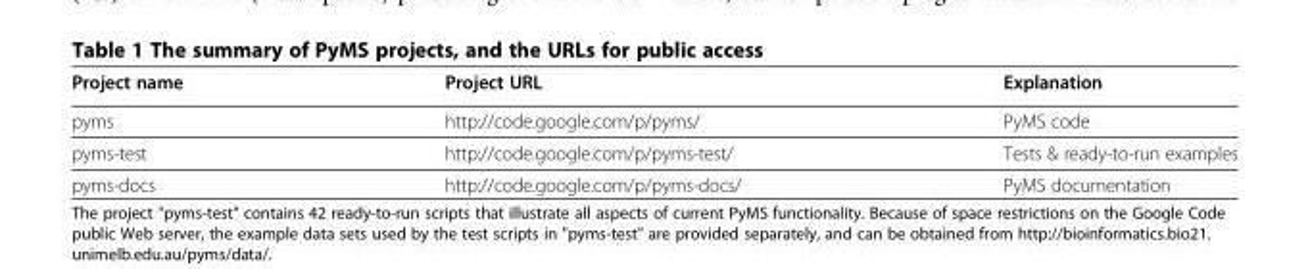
<table><thead><tr><td>Project name</td><td>Project URL</td><td>Explanation</td></tr></thead><tbody><tr><td>pyms</td><td>http://code.google.com/p/pyms/</td><td>PyMS code</td></tr><tr><td>pyms-test</td><td>http://code.google.com/p/pyms-test/</td><td>Tests &amp; ready-to-run examples</td></tr><tr><td>pyms-docs</td><td>http://code.google.com/p/pyms-docs/</td><td>PyMS documentation</td></tr></tbody></table>